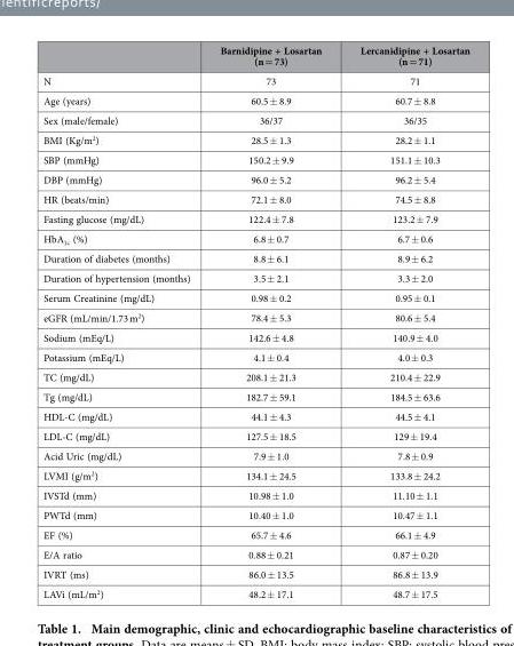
<table><thead><tr><td></td><td>Barnidipine + Losartan (n = 73)</td><td>Lercanidipine + Losartan (n = 71)</td></tr></thead><tbody><tr><td>N</td><td>73</td><td>71</td></tr><tr><td>Age (years)</td><td>60.5 ± 8.9</td><td>60.7 ± 8.8</td></tr><tr><td>Sex (male/female)</td><td>36/37</td><td>36/35</td></tr><tr><td>BMI (Kg/m<sup>2</sup>)</td><td>28.5 ± 1.3</td><td>28.2 ± 1.1</td></tr><tr><td>SBP (mmHg)</td><td>150.2 ± 9.9</td><td>151.1 ± 10.3</td></tr><tr><td>DBP (mmHg)</td><td>96.0 ± 5.2</td><td>96.2 ± 5.4</td></tr><tr><td>HR (beats/min)</td><td>72.1 ± 8.0</td><td>74.5 ± 8.8</td></tr><tr><td>Fasting glucose (mg/dL)</td><td>122.4 ± 7.8</td><td>123.2 ± 7.9</td></tr><tr><td>HbA<sub>1c</sub> (%)</td><td>6.8 ± 0.7</td><td>6.7 ± 0.6</td></tr><tr><td>Duration of diabetes (months)</td><td>8.8 ± 6.1</td><td>8.9 ± 6.2</td></tr><tr><td>Duration of hypertension (months)</td><td>3.5 ± 2.1</td><td>3.3 ± 2.0</td></tr><tr><td>Serum Creatinine (mg/dL)</td><td>0.98 ± 0.2</td><td>0.95 ± 0.1</td></tr><tr><td>eGFR (mL/min/1.73 m<sup>2</sup>)</td><td>78.4 ± 5.3</td><td>80.6 ± 5.4</td></tr><tr><td>Sodium (mEq/L)</td><td>142.6 ± 4.8</td><td>140.9 ± 4.0</td></tr><tr><td>Potassium (mEq/L)</td><td>4.1 ± 0.4</td><td>4.0 ± 0.3</td></tr><tr><td>TC (mg/dL)</td><td>208.1 ± 21.3</td><td>210.4 ± 22.9</td></tr><tr><td>Tg (mg/dL)</td><td>182.7 ± 59.1</td><td>184.5 ± 63.6</td></tr><tr><td>HDL-C (mg/dL)</td><td>44.1 ± 4.3</td><td>44.5 ± 4.1</td></tr><tr><td>LDL-C (mg/dL)</td><td>127.5 ± 18.5</td><td>129 ± 19.4</td></tr><tr><td>Acid Uric (mg/dL)</td><td>7.9 ± 1.0</td><td>7.8 ± 0.9</td></tr><tr><td>LVMI (g/m<sup>2</sup>)</td><td>134.1 ± 24.5</td><td>133.8 ± 24.2</td></tr><tr><td>IVSTd (mm)</td><td>10.98 ± 1.0</td><td>11.10 ± 1.1</td></tr><tr><td>PWTd (mm)</td><td>10.40 ± 1.0</td><td>10.47 ± 1.1</td></tr><tr><td>EF (%)</td><td>65.7 ± 4.6</td><td>66.1 ± 4.9</td></tr><tr><td>E/A ratio</td><td>0.88 ± 0.21</td><td>0.87 ± 0.20</td></tr><tr><td>IVRT (ms)</td><td>86.0 ± 13.5</td><td>86.8 ± 13.9</td></tr><tr><td>LAVi (mL/m<sup>2</sup>)</td><td>48.2 ± 17.1</td><td>48.7 ± 17.5</td></tr></tbody></table>